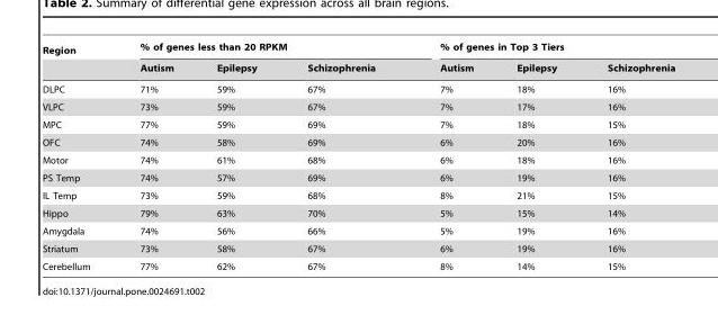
<table><thead><tr><td rowspan="2">Region</td><td colspan="3">% of genes less than 20 RPKM</td><td colspan="3">% of genes in Top 3 Tiers</td></tr><tr><td>Autism</td><td>Epilepsy</td><td>Schizophrenia</td><td>Autism</td><td>Epilepsy</td><td>Schizophrenia</td></tr></thead><tbody><tr><td>DLPC</td><td>71%</td><td>59%</td><td>67%</td><td>7%</td><td>18%</td><td>16%</td></tr><tr><td>VLPC</td><td>73%</td><td>59%</td><td>67%</td><td>7%</td><td>17%</td><td>16%</td></tr><tr><td>MPC</td><td>77%</td><td>59%</td><td>69%</td><td>7%</td><td>18%</td><td>15%</td></tr><tr><td>OFC</td><td>74%</td><td>58%</td><td>69%</td><td>6%</td><td>20%</td><td>16%</td></tr><tr><td>Motor</td><td>74%</td><td>61%</td><td>68%</td><td>6%</td><td>18%</td><td>16%</td></tr><tr><td>PS Temp</td><td>74%</td><td>57%</td><td>69%</td><td>6%</td><td>19%</td><td>16%</td></tr><tr><td>IL Temp</td><td>73%</td><td>59%</td><td>68%</td><td>8%</td><td>21%</td><td>15%</td></tr><tr><td>Hippo</td><td>79%</td><td>63%</td><td>70%</td><td>5%</td><td>15%</td><td>14%</td></tr><tr><td>Amygdala</td><td>74%</td><td>56%</td><td>66%</td><td>5%</td><td>19%</td><td>16%</td></tr><tr><td>Striatum</td><td>73%</td><td>58%</td><td>67%</td><td>6%</td><td>19%</td><td>16%</td></tr><tr><td>Cerebellum</td><td>77%</td><td>62%</td><td>67%</td><td>8%</td><td>14%</td><td>15%</td></tr></tbody></table>